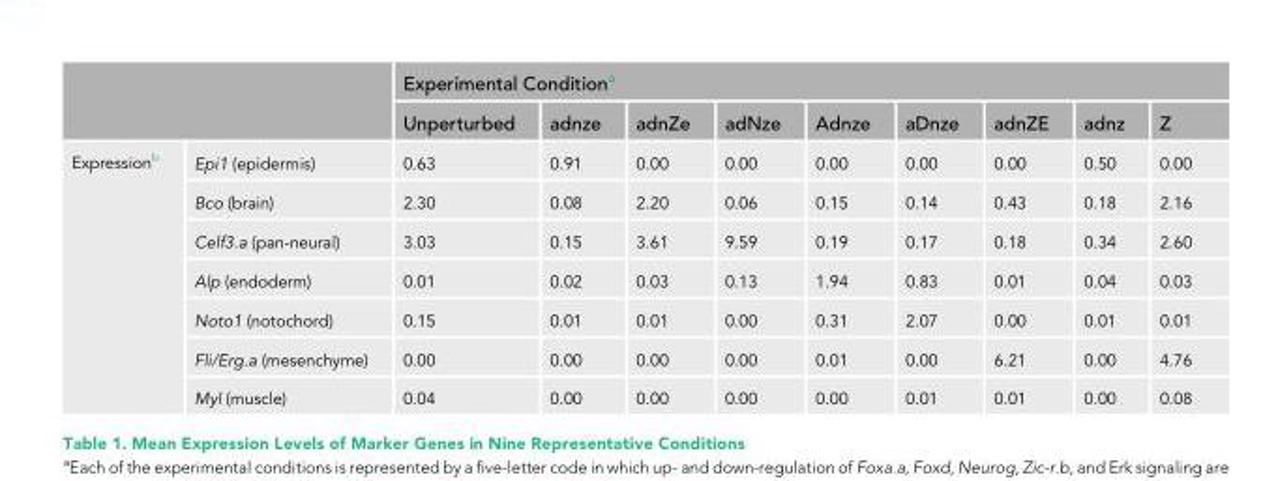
<table><thead><tr><td rowspan="2"></td><td rowspan="2"></td><td colspan="9">Experimental Condition<sup>a</sup></td></tr><tr><td>Unperturbed</td><td>adnze</td><td>adnZe</td><td>adNze</td><td>Adnze</td><td>aDnze</td><td>adnZE</td><td>adnz</td><td>Z</td></tr></thead><tbody><tr><td rowspan="7">Expression<sup>b</sup></td><td>Epi1 (epidermis)</td><td>0.63</td><td>0.91</td><td>0.00</td><td>0.00</td><td>0.00</td><td>0.00</td><td>0.00</td><td>0.50</td><td>0.00</td></tr><tr><td>Bco (brain)</td><td>2.30</td><td>0.08</td><td>2.20</td><td>0.06</td><td>0.15</td><td>0.14</td><td>0.43</td><td>0.18</td><td>2.16</td></tr><tr><td>Celf3.a (pan-neural)</td><td>3.03</td><td>0.15</td><td>3.61</td><td>9.59</td><td>0.19</td><td>0.17</td><td>0.18</td><td>0.34</td><td>2.60</td></tr><tr><td>Alp (endoderm)</td><td>0.01</td><td>0.02</td><td>0.03</td><td>0.13</td><td>1.94</td><td>0.83</td><td>0.01</td><td>0.04</td><td>0.03</td></tr><tr><td>Noto1 (notochord)</td><td>0.15</td><td>0.01</td><td>0.01</td><td>0.00</td><td>0.31</td><td>2.07</td><td>0.00</td><td>0.01</td><td>0.01</td></tr><tr><td>Fli/Erg.a (mesenchyme)</td><td>0.00</td><td>0.00</td><td>0.00</td><td>0.00</td><td>0.01</td><td>0.00</td><td>6.21</td><td>0.00</td><td>4.76</td></tr><tr><td>Myl (muscle)</td><td>0.04</td><td>0.00</td><td>0.00</td><td>0.00</td><td>0.00</td><td>0.01</td><td>0.01</td><td>0.00</td><td>0.08</td></tr></tbody></table>